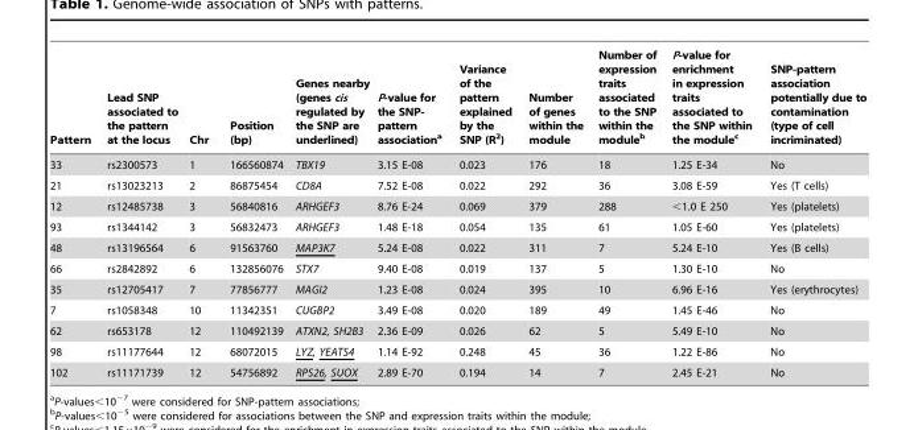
<table><thead><tr><td>Pattern</td><td>Lead SNP associated to the pattern at the locus</td><td>Chr</td><td>Position (bp)</td><td>Genes nearby (genes cis regulated by the SNP are underlined)</td><td>P-value for the SNP- pattern association<sup>a</sup></td><td>Variance of the pattern explained by the SNP (R<sup>2</sup>)</td><td>Number of genes within the module</td><td>Number of expression traits associated to the SNP within the module<sup>b</sup></td><td>P-value for enrichment in expression traits associated to the SNP within the module<sup>c</sup></td><td>SNP-pattern association potentially due to contamination (type of cell incriminated)</td></tr></thead><tbody><tr><td>33</td><td>rs2300573</td><td>1</td><td>166560874</td><td>TBX19</td><td>3.15 E-08</td><td>0.023</td><td>176</td><td>18</td><td>1.25 E-34</td><td>No</td></tr><tr><td>21</td><td>rs13023213</td><td>2</td><td>86875454</td><td>CD8A</td><td>7.52 E-08</td><td>0.022</td><td>292</td><td>36</td><td>3.08 E-59</td><td>Yes (T cells)</td></tr><tr><td>12</td><td>rs12485738</td><td>3</td><td>56840816</td><td>ARHGEF3</td><td>8.76 E-24</td><td>0.069</td><td>379</td><td>288</td><td>&lt;1.0 E 250</td><td>Yes (platelets)</td></tr><tr><td>93</td><td>rs1344142</td><td>3</td><td>56832473</td><td>ARHGEF3</td><td>1.48 E-18</td><td>0.054</td><td>135</td><td>61</td><td>1.05 E-60</td><td>Yes (platelets)</td></tr><tr><td>48</td><td>rs13196564</td><td>6</td><td>91563760</td><td>MAP3K7</td><td>5.24 E-08</td><td>0.022</td><td>311</td><td>7</td><td>5.24 E-10</td><td>Yes (B cells)</td></tr><tr><td>66</td><td>rs2842892</td><td>6</td><td>132856076</td><td>STX7</td><td>9.40 E-08</td><td>0.019</td><td>137</td><td>5</td><td>1.30 E-10</td><td>No</td></tr><tr><td>35</td><td>rs12705417</td><td>7</td><td>77856777</td><td>MAGI2</td><td>1.23 E-08</td><td>0.024</td><td>395</td><td>10</td><td>6.96 E-16</td><td>Yes (erythrocytes)</td></tr><tr><td>7</td><td>rs1058348</td><td>10</td><td>11342351</td><td>CUGBP2</td><td>3.49 E-08</td><td>0.020</td><td>189</td><td>49</td><td>1.45 E-46</td><td>No</td></tr><tr><td>62</td><td>rs653178</td><td>12</td><td>110492139</td><td>ATXN2, SH2B3</td><td>2.36 E-09</td><td>0.026</td><td>62</td><td>5</td><td>5.49 E-10</td><td>No</td></tr><tr><td>98</td><td>rs11177644</td><td>12</td><td>68072015</td><td>LYZ, YEATS4</td><td>1.14 E-92</td><td>0.248</td><td>45</td><td>36</td><td>1.22 E-86</td><td>No</td></tr><tr><td>102</td><td>rs11171739</td><td>12</td><td>54756892</td><td>RPS26, SUOX</td><td>2.89 E-70</td><td>0.194</td><td>14</td><td>7</td><td>2.45 E-21</td><td>No</td></tr></tbody></table>